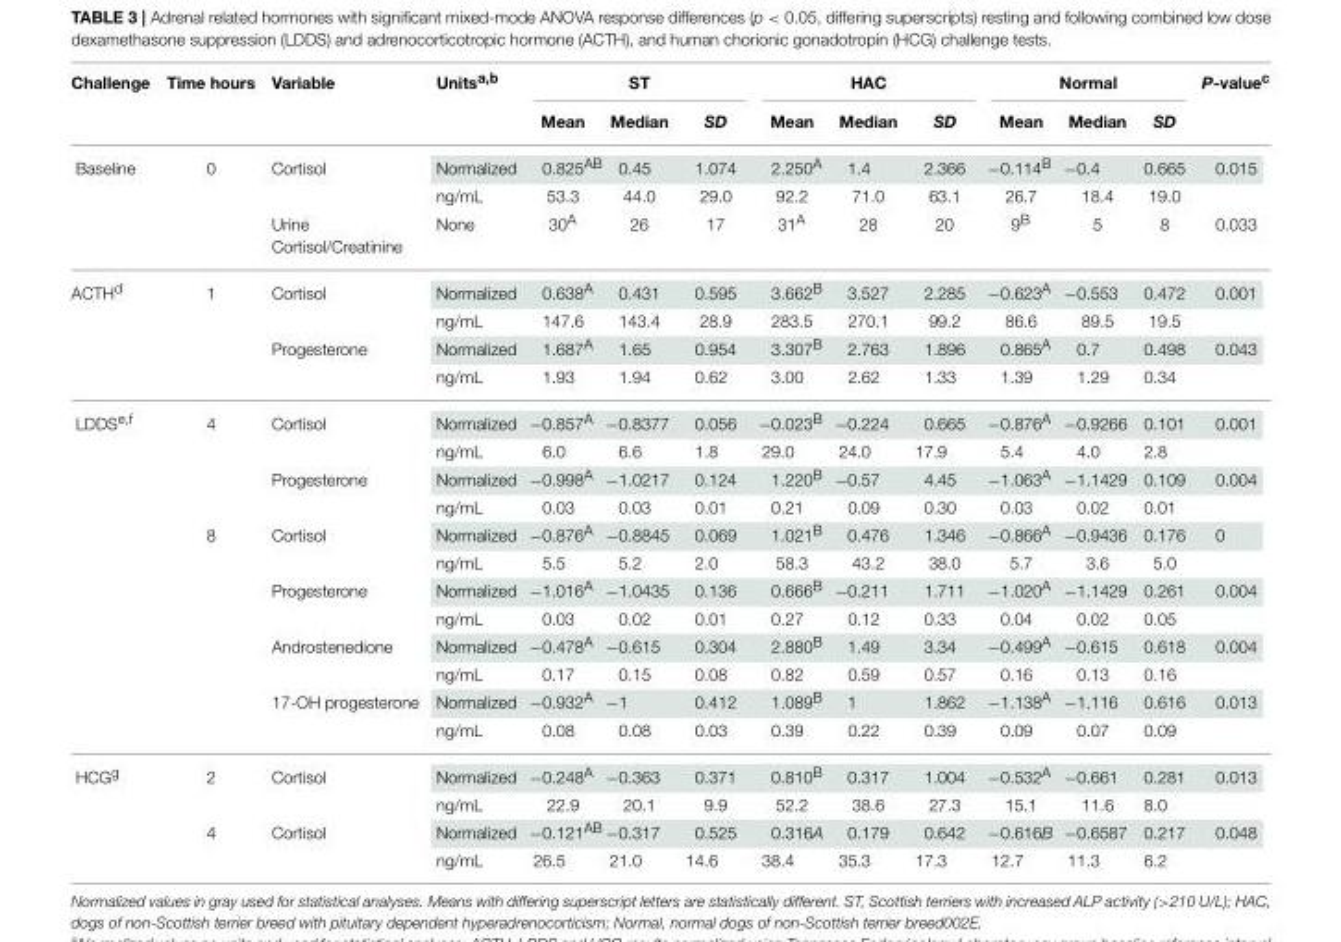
<table><thead><tr><td rowspan="2">Challenge</td><td rowspan="2">Time hours</td><td rowspan="2">Variable</td><td rowspan="2">Units<sup>a,b</sup></td><td colspan="3">ST</td><td colspan="3">HAC</td><td colspan="3">Normal</td><td rowspan="2">P-value<sup>c</sup></td></tr><tr><td>Mean</td><td>Median</td><td>SD</td><td>Mean</td><td>Median</td><td>SD</td><td>Mean</td><td>Median</td><td>SD</td></tr></thead><tbody><tr><td rowspan="3">Baseline</td><td>0</td><td>Cortisol</td><td>Normalized</td><td>0.825<sup>AB</sup></td><td>0.45</td><td>1.074</td><td>2.250<sup>A</sup></td><td>1.4</td><td>2.366</td><td>−0.114<sup>B</sup></td><td>−0.4</td><td>0.665</td><td>0.015</td></tr><tr><td></td><td></td><td>ng/mL</td><td>53.3</td><td>44.0</td><td>29.0</td><td>92.2</td><td>71.0</td><td>63.1</td><td>26.7</td><td>18.4</td><td>19.0</td><td></td></tr><tr><td></td><td>Urine Cortisol/Creatinine</td><td>None</td><td>30<sup>A</sup></td><td>26</td><td>17</td><td>31<sup>A</sup></td><td>28</td><td>20</td><td>9<sup>B</sup></td><td>5</td><td>8</td><td>0.033</td></tr><tr><td rowspan="4">ACTH<sup>d</sup></td><td>1</td><td>Cortisol</td><td>Normalized</td><td>0.638<sup>A</sup></td><td>0.431</td><td>0.595</td><td>3.662<sup>B</sup></td><td>3.527</td><td>2.285</td><td>−0.623<sup>A</sup></td><td>−0.553</td><td>0.472</td><td>0.001</td></tr><tr><td></td><td></td><td>ng/mL</td><td>147.6</td><td>143.4</td><td>28.9</td><td>283.5</td><td>270.1</td><td>99.2</td><td>86.6</td><td>89.5</td><td>19.5</td><td></td></tr><tr><td></td><td>Progesterone</td><td>Normalized</td><td>1.687<sup>A</sup></td><td>1.65</td><td>0.954</td><td>3.307<sup>B</sup></td><td>2.763</td><td>1.896</td><td>0.865<sup>A</sup></td><td>0.7</td><td>0.498</td><td>0.043</td></tr><tr><td></td><td></td><td>ng/mL</td><td>1.93</td><td>1.94</td><td>0.62</td><td>3.00</td><td>2.62</td><td>1.33</td><td>1.39</td><td>1.29</td><td>0.34</td><td></td></tr><tr><td rowspan="12">LDDS<sup>e,f</sup></td><td>4</td><td>Cortisol</td><td>Normalized</td><td>−0.857<sup>A</sup></td><td>−0.8377</td><td>0.056</td><td>−0.023<sup>B</sup></td><td>−0.224</td><td>0.665</td><td>−0.876<sup>A</sup></td><td>−0.9266</td><td>0.101</td><td>0.001</td></tr><tr><td></td><td></td><td>ng/mL</td><td>6.0</td><td>6.6</td><td>1.8</td><td>29.0</td><td>24.0</td><td>17.9</td><td>5.4</td><td>4.0</td><td>2.8</td><td></td></tr><tr><td></td><td>Progesterone</td><td>Normalized</td><td>−0.998<sup>A</sup></td><td>−1.0217</td><td>0.124</td><td>1.220<sup>B</sup></td><td>−0.57</td><td>4.45</td><td>−1.063<sup>A</sup></td><td>−1.1429</td><td>0.109</td><td>0.004</td></tr><tr><td></td><td></td><td>ng/mL</td><td>0.03</td><td>0.03</td><td>0.01</td><td>0.21</td><td>0.09</td><td>0.30</td><td>0.03</td><td>0.02</td><td>0.01</td><td></td></tr><tr><td>8</td><td>Cortisol</td><td>Normalized</td><td>−0.876<sup>A</sup></td><td>−0.8845</td><td>0.069</td><td>1.021<sup>B</sup></td><td>0.476</td><td>1.346</td><td>−0.866<sup>A</sup></td><td>−0.9436</td><td>0.176</td><td>0</td></tr><tr><td></td><td></td><td>ng/mL</td><td>5.5</td><td>5.2</td><td>2.0</td><td>58.3</td><td>43.2</td><td>38.0</td><td>5.7</td><td>3.6</td><td>5.0</td><td></td></tr><tr><td></td><td>Progesterone</td><td>Normalized</td><td>−1.016<sup>A</sup></td><td>−1.0435</td><td>0.136</td><td>0.666<sup>B</sup></td><td>−0.211</td><td>1.711</td><td>−1.020<sup>A</sup></td><td>−1.1429</td><td>0.261</td><td>0.004</td></tr><tr><td></td><td></td><td>ng/mL</td><td>0.03</td><td>0.02</td><td>0.01</td><td>0.27</td><td>0.12</td><td>0.33</td><td>0.04</td><td>0.02</td><td>0.05</td><td></td></tr><tr><td></td><td>Androstenedione</td><td>Normalized</td><td>−0.478<sup>A</sup></td><td>−0.615</td><td>0.304</td><td>2.880<sup>B</sup></td><td>1.49</td><td>3.34</td><td>−0.499<sup>A</sup></td><td>−0.615</td><td>0.618</td><td>0.004</td></tr><tr><td></td><td></td><td>ng/mL</td><td>0.17</td><td>0.15</td><td>0.08</td><td>0.82</td><td>0.59</td><td>0.57</td><td>0.16</td><td>0.13</td><td>0.16</td><td></td></tr><tr><td></td><td>17-OH progesterone</td><td>Normalized</td><td>−0.932<sup>A</sup></td><td>−1</td><td>0.412</td><td>1.089<sup>B</sup></td><td>1</td><td>1.862</td><td>−1.138<sup>A</sup></td><td>−1.116</td><td>0.616</td><td>0.013</td></tr><tr><td></td><td></td><td>ng/mL</td><td>0.08</td><td>0.08</td><td>0.03</td><td>0.39</td><td>0.22</td><td>0.39</td><td>0.09</td><td>0.07</td><td>0.09</td><td></td></tr><tr><td rowspan="4">HCG<sup>g</sup></td><td>2</td><td>Cortisol</td><td>Normalized</td><td>−0.248<sup>A</sup></td><td>−0.363</td><td>0.371</td><td>0.810<sup>B</sup></td><td>0.317</td><td>1.004</td><td>−0.532<sup>A</sup></td><td>−0.661</td><td>0.281</td><td>0.013</td></tr><tr><td></td><td></td><td>ng/mL</td><td>22.9</td><td>20.1</td><td>9.9</td><td>52.2</td><td>38.6</td><td>27.3</td><td>15.1</td><td>11.6</td><td>8.0</td><td></td></tr><tr><td>4</td><td>Cortisol</td><td>Normalized</td><td>−0.121<sup>AB</sup></td><td>−0.317</td><td>0.525</td><td>0.316A</td><td>0.179</td><td>0.642</td><td>−0.616B</td><td>−0.6587</td><td>0.217</td><td>0.048</td></tr><tr><td></td><td></td><td>ng/mL</td><td>26.5</td><td>21.0</td><td>14.6</td><td>38.4</td><td>35.3</td><td>17.3</td><td>12.7</td><td>11.3</td><td>6.2</td><td></td></tr></tbody></table>